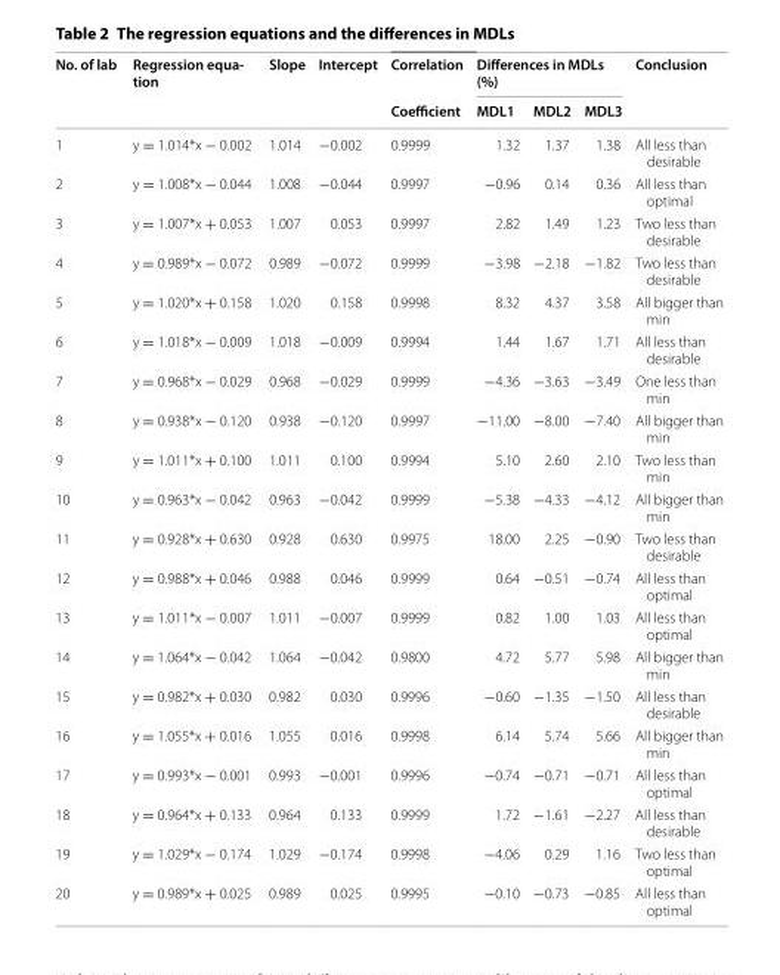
<table><thead><tr><td rowspan="2">No. of lab</td><td rowspan="2">Regression equa‑ tion</td><td rowspan="2">Slope</td><td rowspan="2">Intercept</td><td rowspan="2">Correlation Coefficient</td><td colspan="3">Differences in MDLs (%)</td><td rowspan="2">Conclusion</td></tr><tr><td>MDL1</td><td>MDL2</td><td>MDL3</td></tr></thead><tbody><tr><td>1</td><td>y = 1.014*x − 0.002</td><td>1.014</td><td>−0.002</td><td>0.9999</td><td>1.32</td><td>1.37</td><td>1.38</td><td>All less than desirable</td></tr><tr><td>2</td><td>y = 1.008*x − 0.044</td><td>1.008</td><td>−0.044</td><td>0.9997</td><td>−0.96</td><td>0.14</td><td>0.36</td><td>All less than optimal</td></tr><tr><td>3</td><td>y = 1.007*x + 0.053</td><td>1.007</td><td>0.053</td><td>0.9997</td><td>2.82</td><td>1.49</td><td>1.23</td><td>Two less than desirable</td></tr><tr><td>4</td><td>y = 0.989*x − 0.072</td><td>0.989</td><td>−0.072</td><td>0.9999</td><td>−3.98</td><td>−2.18</td><td>−1.82</td><td>Two less than desirable</td></tr><tr><td>5</td><td>y = 1.020*x + 0.158</td><td>1.020</td><td>0.158</td><td>0.9998</td><td>8.32</td><td>4.37</td><td>3.58</td><td>All bigger than min</td></tr><tr><td>6</td><td>y = 1.018*x − 0.009</td><td>1.018</td><td>−0.009</td><td>0.9994</td><td>1.44</td><td>1.67</td><td>1.71</td><td>All less than desirable</td></tr><tr><td>7</td><td>y = 0.968*x − 0.029</td><td>0.968</td><td>−0.029</td><td>0.9999</td><td>−4.36</td><td>−3.63</td><td>−3.49</td><td>One less than min</td></tr><tr><td>8</td><td>y = 0.938*x − 0.120</td><td>0.938</td><td>−0.120</td><td>0.9997</td><td>−11.00</td><td>−8.00</td><td>−7.40</td><td>All bigger than min</td></tr><tr><td>9</td><td>y = 1.011*x + 0.100</td><td>1.011</td><td>0.100</td><td>0.9994</td><td>5.10</td><td>2.60</td><td>2.10</td><td>Two less than min</td></tr><tr><td>10</td><td>y = 0.963*x − 0.042</td><td>0.963</td><td>−0.042</td><td>0.9999</td><td>−5.38</td><td>−4.33</td><td>−4.12</td><td>All bigger than min</td></tr><tr><td>11</td><td>y = 0.928*x + 0.630</td><td>0.928</td><td>0.630</td><td>0.9975</td><td>18.00</td><td>2.25</td><td>−0.90</td><td>Two less than desirable</td></tr><tr><td>12</td><td>y = 0.988*x + 0.046</td><td>0.988</td><td>0.046</td><td>0.9999</td><td>0.64</td><td>−0.51</td><td>−0.74</td><td>All less than optimal</td></tr><tr><td>13</td><td>y = 1.011*x − 0.007</td><td>1.011</td><td>−0.007</td><td>0.9999</td><td>0.82</td><td>1.00</td><td>1.03</td><td>All less than optimal</td></tr><tr><td>14</td><td>y = 1.064*x − 0.042</td><td>1.064</td><td>−0.042</td><td>0.9800</td><td>4.72</td><td>5.77</td><td>5.98</td><td>All bigger than min</td></tr><tr><td>15</td><td>y = 0.982*x + 0.030</td><td>0.982</td><td>0.030</td><td>0.9996</td><td>−0.60</td><td>−1.35</td><td>−1.50</td><td>All less than desirable</td></tr><tr><td>16</td><td>y = 1.055*x + 0.016</td><td>1.055</td><td>0.016</td><td>0.9998</td><td>6.14</td><td>5.74</td><td>5.66</td><td>All bigger than min</td></tr><tr><td>17</td><td>y = 0.993*x − 0.001</td><td>0.993</td><td>−0.001</td><td>0.9996</td><td>−0.74</td><td>−0.71</td><td>−0.71</td><td>All less than optimal</td></tr><tr><td>18</td><td>y = 0.964*x + 0.133</td><td>0.964</td><td>0.133</td><td>0.9999</td><td>1.72</td><td>−1.61</td><td>−2.27</td><td>All less than desirable</td></tr><tr><td>19</td><td>y = 1.029*x − 0.174</td><td>1.029</td><td>−0.174</td><td>0.9998</td><td>−4.06</td><td>0.29</td><td>1.16</td><td>Two less than optimal</td></tr><tr><td>20</td><td>y = 0.989*x + 0.025</td><td>0.989</td><td>0.025</td><td>0.9995</td><td>−0.10</td><td>−0.73</td><td>−0.85</td><td>All less than optimal</td></tr></tbody></table>